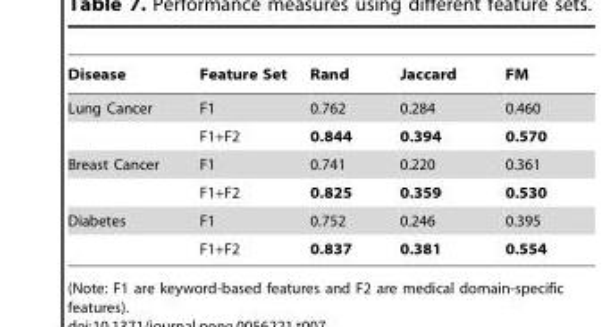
<table><thead><tr><td>Disease</td><td>Feature Set</td><td>Rand</td><td>Jaccard</td><td>FM</td></tr></thead><tbody><tr><td rowspan="2">Lung Cancer</td><td>F1</td><td>0.762</td><td>0.284</td><td>0.460</td></tr><tr><td>F1+F2</td><td>0.844</td><td>0.394</td><td>0.570</td></tr><tr><td rowspan="2">Breast Cancer</td><td>F1</td><td>0.741</td><td>0.220</td><td>0.361</td></tr><tr><td>F1+F2</td><td>0.825</td><td>0.359</td><td>0.530</td></tr><tr><td rowspan="2">Diabetes</td><td>F1</td><td>0.752</td><td>0.246</td><td>0.395</td></tr><tr><td>F1+F2</td><td>0.837</td><td>0.381</td><td>0.554</td></tr></tbody></table>